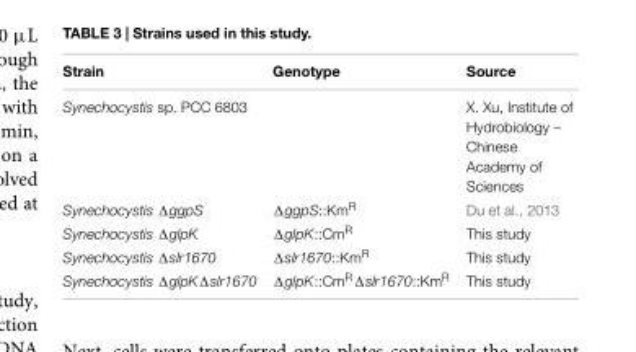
<table><thead><tr><td>Strain</td><td>Genotype</td><td>Source</td></tr></thead><tbody><tr><td>Synechocystis sp. PCC 6803</td><td></td><td>X. Xu, Institute of Hydrobiology – Chinese Academy of Sciences</td></tr><tr><td>Synechocystis ΔggpS</td><td>ΔggpS::Km<sup>R</sup></td><td>Du et al., 2013</td></tr><tr><td>Synechocystis ΔglpK</td><td>ΔglpK::Cm<sup>R</sup></td><td>This study</td></tr><tr><td>Synechocystis Δslr1670</td><td>Δslr1670::Km<sup>R</sup></td><td>This study</td></tr><tr><td>Synechocystis ΔglpKΔslr1670</td><td>ΔglpK::Cm<sup>R</sup>Δslr1670::Km<sup>R</sup></td><td>This study</td></tr></tbody></table>